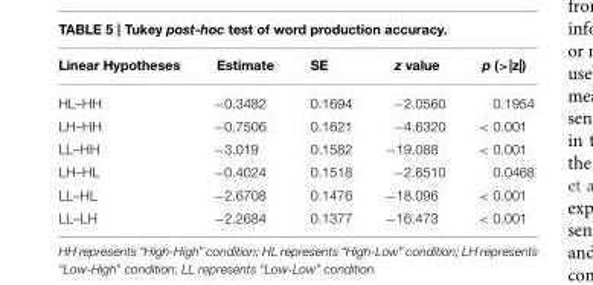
<table><thead><tr><td>Linear Hypotheses</td><td>Estimate</td><td>SE</td><td>z value</td><td>p (&gt;|z|)</td></tr></thead><tbody><tr><td>HL–HH</td><td>−0.3482</td><td>0.1694</td><td>−2.0560</td><td>0.1954</td></tr><tr><td>LH–HH</td><td>−0.7506</td><td>0.1621</td><td>−4.6320</td><td>&lt; 0.001</td></tr><tr><td>LL–HH</td><td>−3.019</td><td>0.1582</td><td>−19.088</td><td>&lt; 0.001</td></tr><tr><td>LH–HL</td><td>−0.4024</td><td>0.1518</td><td>−2.6510</td><td>0.0468</td></tr><tr><td>LL–HL</td><td>−2.6708</td><td>0.1476</td><td>−18.096</td><td>&lt; 0.001</td></tr><tr><td>LL–LH</td><td>−2.2684</td><td>0.1377</td><td>−16.473</td><td>&lt; 0.001</td></tr></tbody></table>